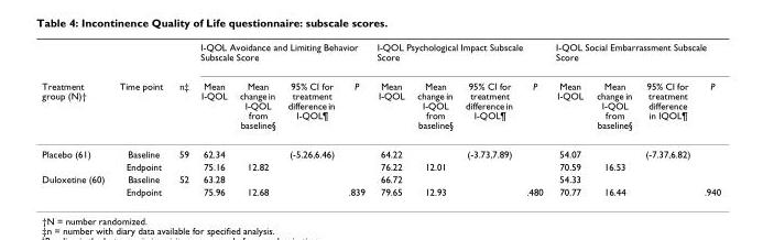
<table><thead><tr><td rowspan="2">Treatment group (N)†</td><td rowspan="2">Time point</td><td rowspan="2">n‡</td><td colspan="4">I-QOL Avoidance and Limiting Behavior Subscale Score</td><td colspan="4">I-QOL Psychological Impact Subscale Score</td><td colspan="4">I-QOL Social Embarrassment Subscale Score</td></tr><tr><td>Mean I-QOL</td><td>Mean change in I-QOL from baseline§</td><td>95% CI for treatment difference in I-QOL¶</td><td>P</td><td>Mean I-QOL</td><td>Mean change in I-QOL from baseline§</td><td>95% CI for treatment difference in I-QOL¶</td><td>P</td><td>Mean I-QOL</td><td>Mean change in I-QOL from baseline§</td><td>95% CI for treatment difference in IQOL¶</td><td>P</td></tr></thead><tbody><tr><td rowspan="2">Placebo (61)</td><td>Baseline</td><td>59</td><td>62.34</td><td></td><td>(-5.26,6.46)</td><td></td><td>64.22</td><td></td><td>(-3.73,7.89)</td><td></td><td>54.07</td><td></td><td>(-7.37,6.82)</td><td></td></tr><tr><td>Endpoint</td><td></td><td>75.16</td><td>12.82</td><td></td><td></td><td>76.22</td><td>12.01</td><td></td><td></td><td>70.59</td><td>16.53</td><td></td><td></td></tr><tr><td rowspan="2">Duloxetine (60)</td><td>Baseline</td><td>52</td><td>63.28</td><td></td><td></td><td></td><td>66.72</td><td></td><td></td><td></td><td>54.33</td><td></td><td></td><td></td></tr><tr><td>Endpoint</td><td></td><td>75.96</td><td>12.68</td><td></td><td>.839</td><td>79.65</td><td>12.93</td><td></td><td>.480</td><td>70.77</td><td>16.44</td><td></td><td>.940</td></tr></tbody></table>